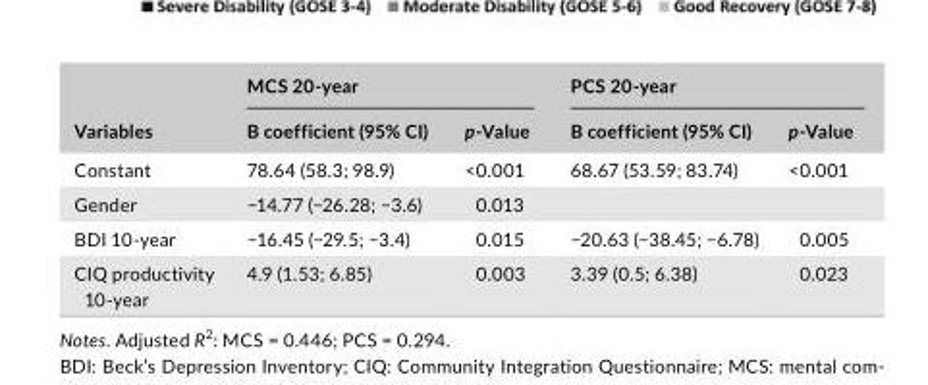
<table><thead><tr><td rowspan="2">Variables</td><td colspan="2">MCS 20- year</td><td colspan="2">PCS 20- year</td></tr><tr><td>B coefficient (95% CI)</td><td>p- Value</td><td>B coefficient (95% CI)</td><td>p- Value</td></tr></thead><tbody><tr><td>Constant</td><td>78.64 (58.3; 98.9)</td><td>&lt;0.001</td><td>68.67 (53.59; 83.74)</td><td>&lt;0.001</td></tr><tr><td>Gender</td><td>−14.77 (−26.28; −3.6)</td><td>0.013</td><td></td><td></td></tr><tr><td>BDI 10- year</td><td>−16.45 (−29.5; −3.4)</td><td>0.015</td><td>−20.63 (−38.45; −6.78)</td><td>0.005</td></tr><tr><td>CIQ productivity 10- year</td><td>4.9 (1.53; 6.85)</td><td>0.003</td><td>3.39 (0.5; 6.38)</td><td>0.023</td></tr></tbody></table>